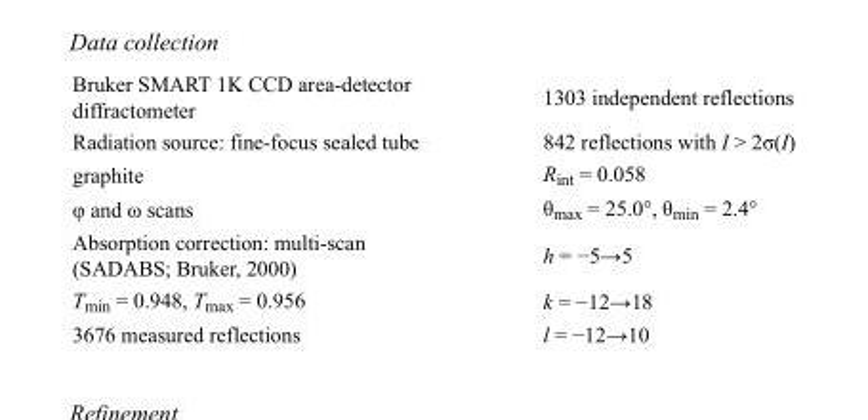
<table><tbody><tr><td>Bruker SMART 1K CCD area-detector diffractometer</td><td>1303 independent reflections</td></tr><tr><td>Radiation source: fine-focus sealed tube</td><td>842 reflections with I &gt; 2σ(I)</td></tr><tr><td>graphite</td><td>R<sub>int</sub> = 0.058</td></tr><tr><td>φ and ω scans</td><td>θ<sub>max</sub> = 25.0°, θ<sub>min</sub> = 2.4°</td></tr><tr><td>Absorption correction: multi-scan (SADABS; Bruker, 2000)</td><td>h = −5→5</td></tr><tr><td>T<sub>min</sub> = 0.948, T<sub>max</sub> = 0.956</td><td>k = −12→18</td></tr><tr><td>3676 measured reflections</td><td>l = −12→10</td></tr></tbody></table>